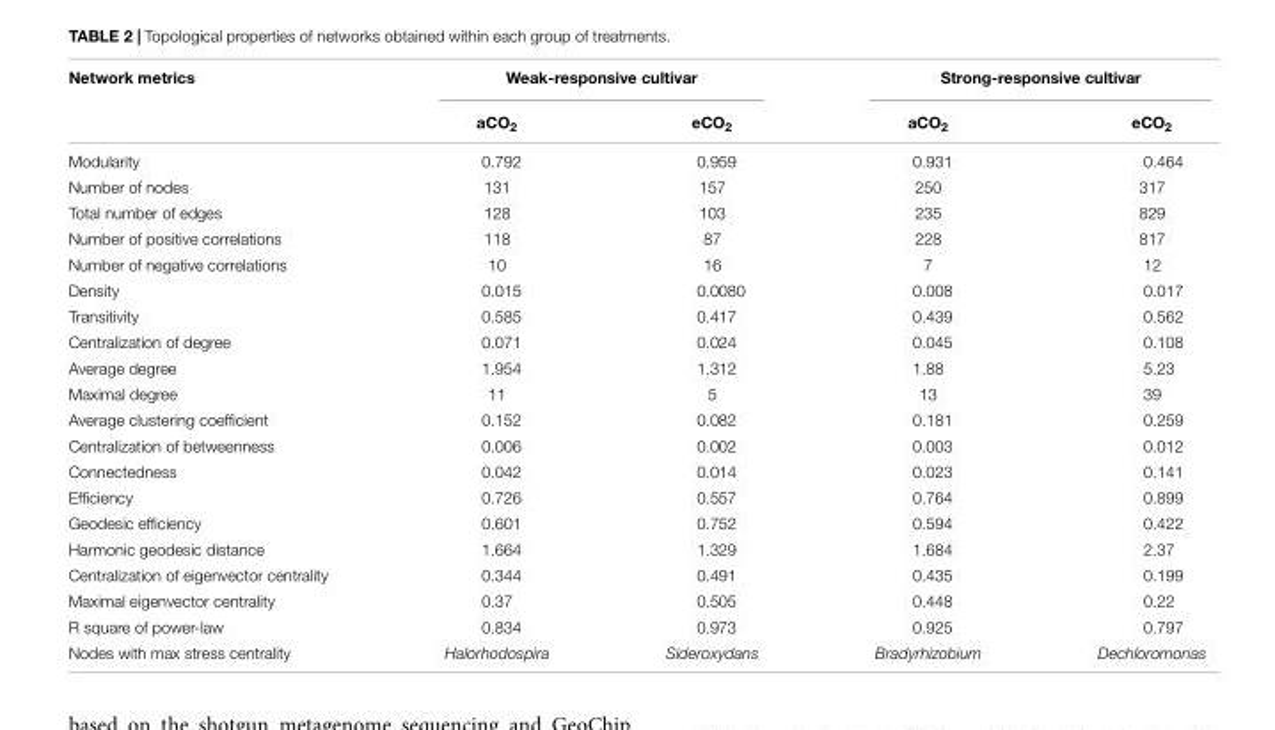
<table><thead><tr><td rowspan="2">Network metrics</td><td colspan="2">Weak-responsive cultivar</td><td colspan="2">Strong-responsive cultivar</td></tr><tr><td>aCO<sub>2</sub></td><td>eCO<sub>2</sub></td><td>aCO<sub>2</sub></td><td>eCO<sub>2</sub></td></tr></thead><tbody><tr><td>Modularity</td><td>0.792</td><td>0.959</td><td>0.931</td><td>0.464</td></tr><tr><td>Number of nodes</td><td>131</td><td>157</td><td>250</td><td>317</td></tr><tr><td>Total number of edges</td><td>128</td><td>103</td><td>235</td><td>829</td></tr><tr><td>Number of positive correlations</td><td>118</td><td>87</td><td>228</td><td>817</td></tr><tr><td>Number of negative correlations</td><td>10</td><td>16</td><td>7</td><td>12</td></tr><tr><td>Density</td><td>0.015</td><td>0.0080</td><td>0.008</td><td>0.017</td></tr><tr><td>Transitivity</td><td>0.585</td><td>0.417</td><td>0.439</td><td>0.562</td></tr><tr><td>Centralization of degree</td><td>0.071</td><td>0.024</td><td>0.045</td><td>0.108</td></tr><tr><td>Average degree</td><td>1.954</td><td>1.312</td><td>1.88</td><td>5.23</td></tr><tr><td>Maximal degree</td><td>11</td><td>5</td><td>13</td><td>39</td></tr><tr><td>Average clustering coefficient</td><td>0.152</td><td>0.082</td><td>0.181</td><td>0.259</td></tr><tr><td>Centralization of betweenness</td><td>0.006</td><td>0.002</td><td>0.003</td><td>0.012</td></tr><tr><td>Connectedness</td><td>0.042</td><td>0.014</td><td>0.023</td><td>0.141</td></tr><tr><td>Efficiency</td><td>0.726</td><td>0.557</td><td>0.764</td><td>0.899</td></tr><tr><td>Geodesic efficiency</td><td>0.601</td><td>0.752</td><td>0.594</td><td>0.422</td></tr><tr><td>Harmonic geodesic distance</td><td>1.664</td><td>1.329</td><td>1.684</td><td>2.37</td></tr><tr><td>Centralization of eigenvector centrality</td><td>0.344</td><td>0.491</td><td>0.435</td><td>0.199</td></tr><tr><td>Maximal eigenvector centrality</td><td>0.37</td><td>0.505</td><td>0.448</td><td>0.22</td></tr><tr><td>R square of power-law</td><td>0.834</td><td>0.973</td><td>0.925</td><td>0.797</td></tr><tr><td>Nodes with max stress centrality</td><td>Halorhodospira</td><td>Sideroxydans</td><td>Bradyrhizobium</td><td>Dechloromonas</td></tr></tbody></table>